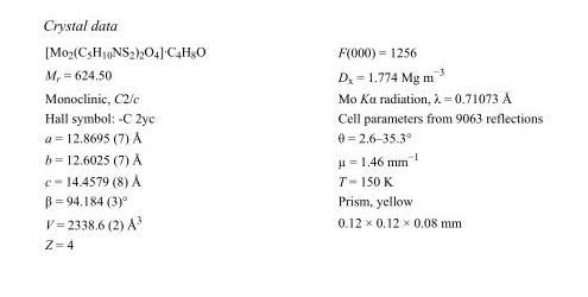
<table><tbody><tr><td>[Mo<sub>2</sub>(C<sub>5</sub>H<sub>10</sub>NS<sub>2</sub>)<sub>2</sub>O<sub>4</sub>]·C<sub>4</sub>H<sub>8</sub>O</td><td>F(000) = 1256</td></tr><tr><td>M<sub>r</sub> = 624.50</td><td>D<sub>x</sub> = 1.774 Mg m<sup>−3</sup></td></tr><tr><td>Monoclinic, C2/c</td><td>Mo Kα radiation, λ = 0.71073 Å</td></tr><tr><td>Hall symbol: -C 2yc</td><td>Cell parameters from 9063 reflections</td></tr><tr><td>a = 12.8695 (7) Å</td><td>θ = 2.6–35.3°</td></tr><tr><td>b = 12.6025 (7) Å</td><td>µ = 1.46 mm<sup>−1</sup></td></tr><tr><td>c = 14.4579 (8) Å</td><td>T = 150 K</td></tr><tr><td>β = 94.184 (3)°</td><td>Prism, yellow</td></tr><tr><td>V = 2338.6 (2) Å<sup>3</sup></td><td>0.12 × 0.12 × 0.08 mm</td></tr><tr><td>Z = 4</td><td></td></tr></tbody></table>